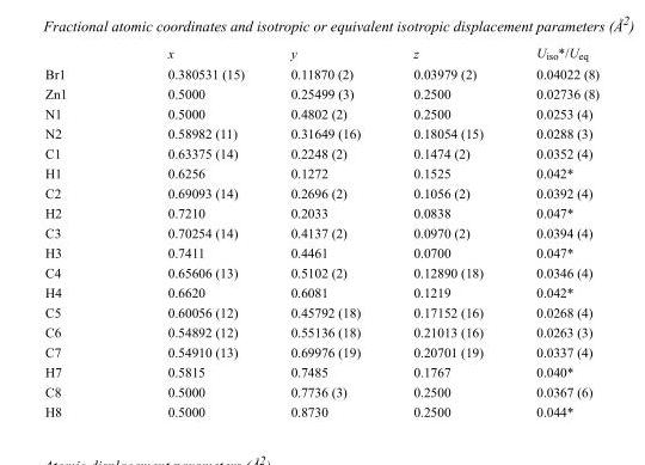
<table><thead><tr><td></td><td>x</td><td>y</td><td>z</td><td>U<sub>iso</sub>*/U<sub>eq</sub></td></tr></thead><tbody><tr><td>Br1</td><td>0.380531 (15)</td><td>0.11870 (2)</td><td>0.03979 (2)</td><td>0.04022 (8)</td></tr><tr><td>Zn1</td><td>0.5000</td><td>0.25499 (3)</td><td>0.2500</td><td>0.02736 (8)</td></tr><tr><td>N1</td><td>0.5000</td><td>0.4802 (2)</td><td>0.2500</td><td>0.0253 (4)</td></tr><tr><td>N2</td><td>0.58982 (11)</td><td>0.31649 (16)</td><td>0.18054 (15)</td><td>0.0288 (3)</td></tr><tr><td>C1</td><td>0.63375 (14)</td><td>0.2248 (2)</td><td>0.1474 (2)</td><td>0.0352 (4)</td></tr><tr><td>H1</td><td>0.6256</td><td>0.1272</td><td>0.1525</td><td>0.042*</td></tr><tr><td>C2</td><td>0.69093 (14)</td><td>0.2696 (2)</td><td>0.1056 (2)</td><td>0.0392 (4)</td></tr><tr><td>H2</td><td>0.7210</td><td>0.2033</td><td>0.0838</td><td>0.047*</td></tr><tr><td>C3</td><td>0.70254 (14)</td><td>0.4137 (2)</td><td>0.0970 (2)</td><td>0.0394 (4)</td></tr><tr><td>H3</td><td>0.7411</td><td>0.4461</td><td>0.0700</td><td>0.047*</td></tr><tr><td>C4</td><td>0.65606 (13)</td><td>0.5102 (2)</td><td>0.12890 (18)</td><td>0.0346 (4)</td></tr><tr><td>H4</td><td>0.6620</td><td>0.6081</td><td>0.1219</td><td>0.042*</td></tr><tr><td>C5</td><td>0.60056 (12)</td><td>0.45792 (18)</td><td>0.17152 (16)</td><td>0.0268 (4)</td></tr><tr><td>C6</td><td>0.54892 (12)</td><td>0.55136 (18)</td><td>0.21013 (16)</td><td>0.0263 (3)</td></tr><tr><td>C7</td><td>0.54910 (13)</td><td>0.69976 (19)</td><td>0.20701 (19)</td><td>0.0337 (4)</td></tr><tr><td>H7</td><td>0.5815</td><td>0.7485</td><td>0.1767</td><td>0.040*</td></tr><tr><td>C8</td><td>0.5000</td><td>0.7736 (3)</td><td>0.2500</td><td>0.0367 (6)</td></tr><tr><td>H8</td><td>0.5000</td><td>0.8730</td><td>0.2500</td><td>0.044*</td></tr></tbody></table>